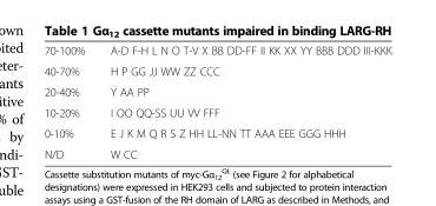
<table><tbody><tr><td>70-100%</td><td>A-D F-H L N O T-V X BB DD-FF II KK XX YY BBB DDD III-KKK</td></tr><tr><td>40-70%</td><td>H P GG JJ WW ZZ CCC</td></tr><tr><td>20-40%</td><td>Y AA PP</td></tr><tr><td>10-20%</td><td>I OO QQ-SS UU VV FFF</td></tr><tr><td>0-10%</td><td>E J K M Q R S Z HH LL-NN TT AAA EEE GGG HHH</td></tr><tr><td>N/D</td><td>W CC</td></tr></tbody></table>